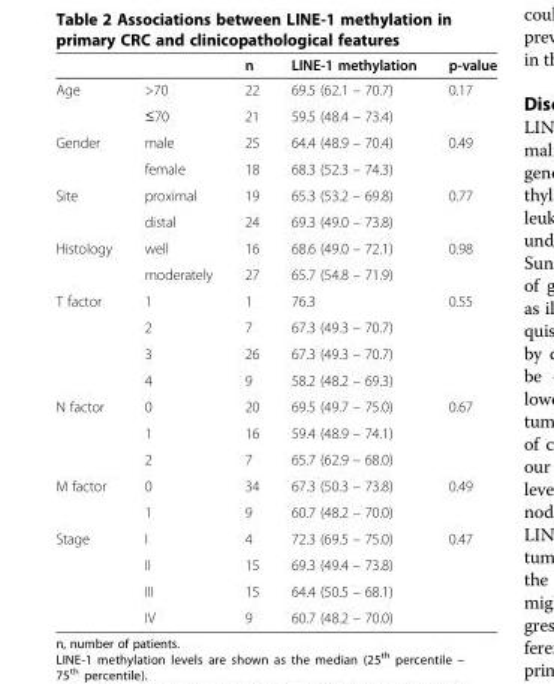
<table><thead><tr><td></td><td></td><td>n</td><td>LINE-1 methylation</td><td>p-value</td></tr></thead><tbody><tr><td rowspan="2">Age</td><td>&gt;70</td><td>22</td><td>69.5 (62.1 – 70.7)</td><td>0.17</td></tr><tr><td>≤70</td><td>21</td><td>59.5 (48.4 – 73.4)</td><td></td></tr><tr><td rowspan="2">Gender</td><td>male</td><td>25</td><td>64.4 (48.9 – 70.4)</td><td>0.49</td></tr><tr><td>female</td><td>18</td><td>68.3 (52.3 – 74.3)</td><td></td></tr><tr><td rowspan="2">Site</td><td>proximal</td><td>19</td><td>65.3 (53.2 – 69.8)</td><td>0.77</td></tr><tr><td>distal</td><td>24</td><td>69.3 (49.0 – 73.8)</td><td></td></tr><tr><td rowspan="2">Histology</td><td>well</td><td>16</td><td>68.6 (49.0 – 72.1)</td><td>0.98</td></tr><tr><td>moderately</td><td>27</td><td>65.7 (54.8 – 71.9)</td><td></td></tr><tr><td rowspan="4">T factor</td><td>1</td><td>1</td><td>76.3</td><td>0.55</td></tr><tr><td>2</td><td>7</td><td>67.3 (49.3 – 70.7)</td><td></td></tr><tr><td>3</td><td>26</td><td>67.3 (49.3 – 70.7)</td><td></td></tr><tr><td>4</td><td>9</td><td>58.2 (48.2 – 69.3)</td><td></td></tr><tr><td rowspan="3">N factor</td><td>0</td><td>20</td><td>69.5 (49.7 – 75.0)</td><td>0.67</td></tr><tr><td>1</td><td>16</td><td>59.4 (48.9 – 74.1)</td><td></td></tr><tr><td>2</td><td>7</td><td>65.7 (62.9 – 68.0)</td><td></td></tr><tr><td rowspan="2">M factor</td><td>0</td><td>34</td><td>67.3 (50.3 – 73.8)</td><td>0.49</td></tr><tr><td>1</td><td>9</td><td>60.7 (48.2 – 70.0)</td><td></td></tr><tr><td rowspan="4">Stage</td><td>I</td><td>4</td><td>72.3 (69.5 – 75.0)</td><td>0.47</td></tr><tr><td>II</td><td>15</td><td>69.3 (49.4 – 73.8)</td><td></td></tr><tr><td>III</td><td>15</td><td>64.4 (50.5 – 68.1)</td><td></td></tr><tr><td>IV</td><td>9</td><td>60.7 (48.2 – 70.0)</td><td></td></tr></tbody></table>